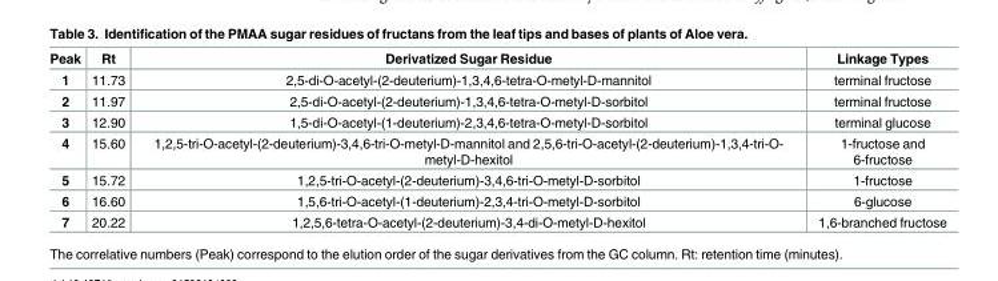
<table><thead><tr><td>Peak</td><td>Rt</td><td>Derivatized Sugar Residue</td><td>Linkage Types</td></tr></thead><tbody><tr><td>1</td><td>11.73</td><td>2,5-di-O-acetyl-(2-deuterium)-1,3,4,6-tetra-O-metyl-D-mannitol</td><td>terminal fructose</td></tr><tr><td>2</td><td>11.97</td><td>2,5-di-O-acetyl-(2-deuterium)-1,3,4,6-tetra-O-metyl-D-sorbitol</td><td>terminal fructose</td></tr><tr><td>3</td><td>12.90</td><td>1,5-di-O-acetyl-(1-deuterium)-2,3,4,6-tetra-O-metyl-D-sorbitol</td><td>terminal glucose</td></tr><tr><td>4</td><td>15.60</td><td>1,2,5-tri-O-acetyl-(2-deuterium)-3,4,6-tri-O-metyl-D-mannitol and 2,5,6-tri-O-acetyl-(2-deuterium)-1,3,4-tri-O- metyl-D-hexitol</td><td>1-fructose and 6-fructose</td></tr><tr><td>5</td><td>15.72</td><td>1,2,5-tri-O-acetyl-(2-deuterium)-3,4,6-tri-O-metyl-D-sorbitol</td><td>1-fructose</td></tr><tr><td>6</td><td>16.60</td><td>1,5,6-tri-O-acetyl-(1-deuterium)-2,3,4-tri-O-metyl-D-sorbitol</td><td>6-glucose</td></tr><tr><td>7</td><td>20.22</td><td>1,2,5,6-tetra-O-acetyl-(2-deuterium)-3,4-di-O-metyl-D-hexitol</td><td>1,6-branched fructose</td></tr></tbody></table>